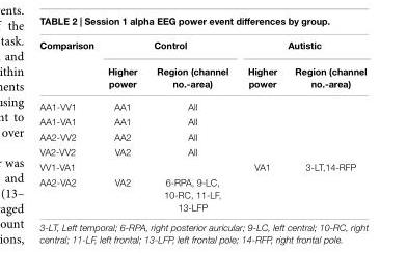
<table><thead><tr><td rowspan="2">Comparison</td><td colspan="2">Control</td><td colspan="2">Autistic</td></tr><tr><td>Higher power</td><td>Region (channel no.-area)</td><td>Higher power</td><td>Region (channel no.-area)</td></tr></thead><tbody><tr><td>AA1-VV1</td><td>AA1</td><td>All</td><td></td><td></td></tr><tr><td>AA1-VA1</td><td>AA1</td><td>All</td><td></td><td></td></tr><tr><td>AA2-VV2</td><td>AA2</td><td>All</td><td></td><td></td></tr><tr><td>VA2-VV2</td><td>VA2</td><td>All</td><td></td><td></td></tr><tr><td>VV1-VA1</td><td></td><td></td><td>VA1</td><td>3-LT,14-RFP</td></tr><tr><td>AA2-VA2</td><td>VA2</td><td>6-RPA, 9-LC, 10-RC, 11-LF, 13-LFP</td><td></td><td></td></tr></tbody></table>